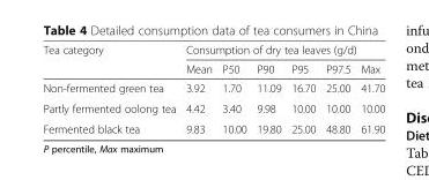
<table><thead><tr><td rowspan="2">Tea category</td><td colspan="6">Consumption of dry tea leaves (g/d)</td></tr><tr><td>Mean</td><td>P50</td><td>P90</td><td>P95</td><td>P97.5</td><td>Max</td></tr></thead><tbody><tr><td>Non-fermented green tea</td><td>3.92</td><td>1.70</td><td>11.09</td><td>16.70</td><td>25.00</td><td>41.70</td></tr><tr><td>Partly fermented oolong tea</td><td>4.42</td><td>3.40</td><td>9.98</td><td>10.00</td><td>10.00</td><td>10.00</td></tr><tr><td>Fermented black tea</td><td>9.83</td><td>10.00</td><td>19.80</td><td>25.00</td><td>48.80</td><td>61.90</td></tr></tbody></table>